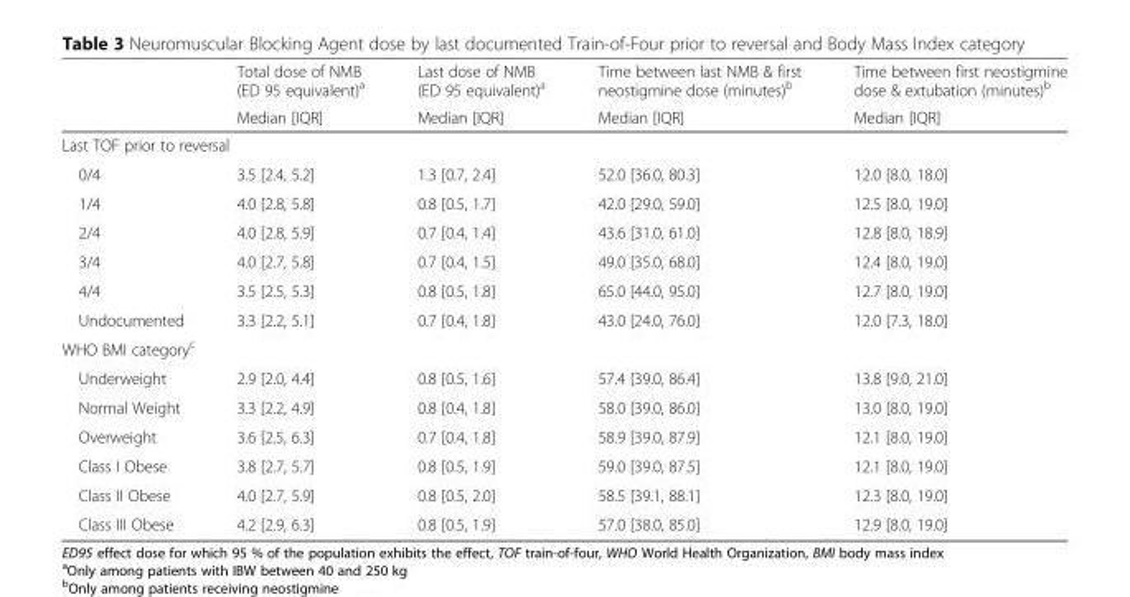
<table><thead><tr><td rowspan="2"></td><td rowspan="2">Total dose of NMB (ED 95 equivalent)<sup>a</sup> Median [IQR]</td><td rowspan="2">Last dose of NMB (ED 95 equivalent)<sup>a</sup> Median [IQR]</td><td rowspan="2">Time between last NMB &amp; first neostigmine dose (minutes)<sup>b</sup> Median [IQR]</td><td rowspan="2">Time between first neostigmine dose &amp; extubation (minutes)<sup>b</sup> Median [IQR]</td></tr><tr></tr></thead><tbody><tr><td colspan="5">Last TOF prior to reversal</td></tr><tr><td>0/4</td><td>3.5 [2.4, 5.2]</td><td>1.3 [0.7, 2.4]</td><td>52.0 [36.0, 80.3]</td><td>12.0 [8.0, 18.0]</td></tr><tr><td>1/4</td><td>4.0 [2.8, 5.8]</td><td>0.8 [0.5, 1.7]</td><td>42.0 [29.0, 59.0]</td><td>12.5 [8.0, 19.0]</td></tr><tr><td>2/4</td><td>4.0 [2.8, 5.9]</td><td>0.7 [0.4, 1.4]</td><td>43.6 [31.0, 61.0]</td><td>12.8 [8.0, 18.9]</td></tr><tr><td>3/4</td><td>4.0 [2.7, 5.8]</td><td>0.7 [0.4, 1.5]</td><td>49.0 [35.0, 68.0]</td><td>12.4 [8.0, 19.0]</td></tr><tr><td>4/4</td><td>3.5 [2.5, 5.3]</td><td>0.8 [0.5, 1.8]</td><td>65.0 [44.0, 95.0]</td><td>12.7 [8.0, 19.0]</td></tr><tr><td>Undocumented</td><td>3.3 [2.2, 5.1]</td><td>0.7 [0.4, 1.8]</td><td>43.0 [24.0, 76.0]</td><td>12.0 [7.3, 18.0]</td></tr><tr><td colspan="5">WHO BMI category<sup>c</sup></td></tr><tr><td>Underweight</td><td>2.9 [2.0, 4.4]</td><td>0.8 [0.5, 1.6]</td><td>57.4 [39.0, 86.4]</td><td>13.8 [9.0, 21.0]</td></tr><tr><td>Normal Weight</td><td>3.3 [2.2, 4.9]</td><td>0.8 [0.4, 1.8]</td><td>58.0 [39.0, 86.0]</td><td>13.0 [8.0, 19.0]</td></tr><tr><td>Overweight</td><td>3.6 [2.5, 6.3]</td><td>0.7 [0.4, 1.8]</td><td>58.9 [39.0, 87.9]</td><td>12.1 [8.0, 19.0]</td></tr><tr><td>Class I Obese</td><td>3.8 [2.7, 5.7]</td><td>0.8 [0.5, 1.9]</td><td>59.0 [39.0, 87.5]</td><td>12.1 [8.0, 19.0]</td></tr><tr><td>Class II Obese</td><td>4.0 [2.7, 5.9]</td><td>0.8 [0.5, 2.0]</td><td>58.5 [39.1, 88.1]</td><td>12.3 [8.0, 19.0]</td></tr><tr><td>Class III Obese</td><td>4.2 [2.9, 6.3]</td><td>0.8 [0.5, 1.9]</td><td>57.0 [38.0, 85.0]</td><td>12.9 [8.0, 19.0]</td></tr></tbody></table>